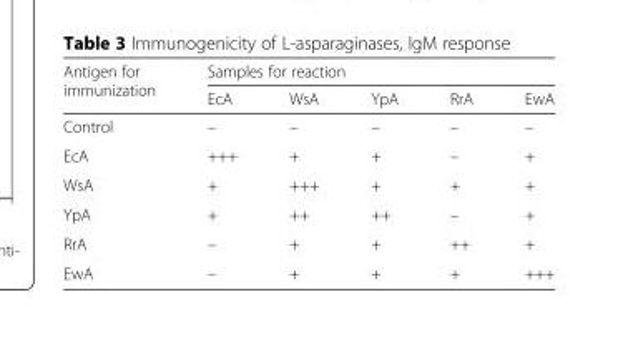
<table><thead><tr><td rowspan="2">Antigen for immunization</td><td colspan="5">Samples for reaction</td></tr><tr><td>EcA</td><td>WsA</td><td>YpA</td><td>RrA</td><td>EwA</td></tr></thead><tbody><tr><td>Control</td><td>–</td><td>–</td><td>–</td><td>–</td><td>–</td></tr><tr><td>EcA</td><td>+++</td><td>+</td><td>+</td><td>–</td><td>+</td></tr><tr><td>WsA</td><td>+</td><td>+++</td><td>+</td><td>+</td><td>+</td></tr><tr><td>YpA</td><td>+</td><td>++</td><td>++</td><td>–</td><td>+</td></tr><tr><td>RrA</td><td>–</td><td>+</td><td>+</td><td>++</td><td>+</td></tr><tr><td>EwA</td><td>–</td><td>+</td><td>+</td><td>+</td><td>+++</td></tr></tbody></table>